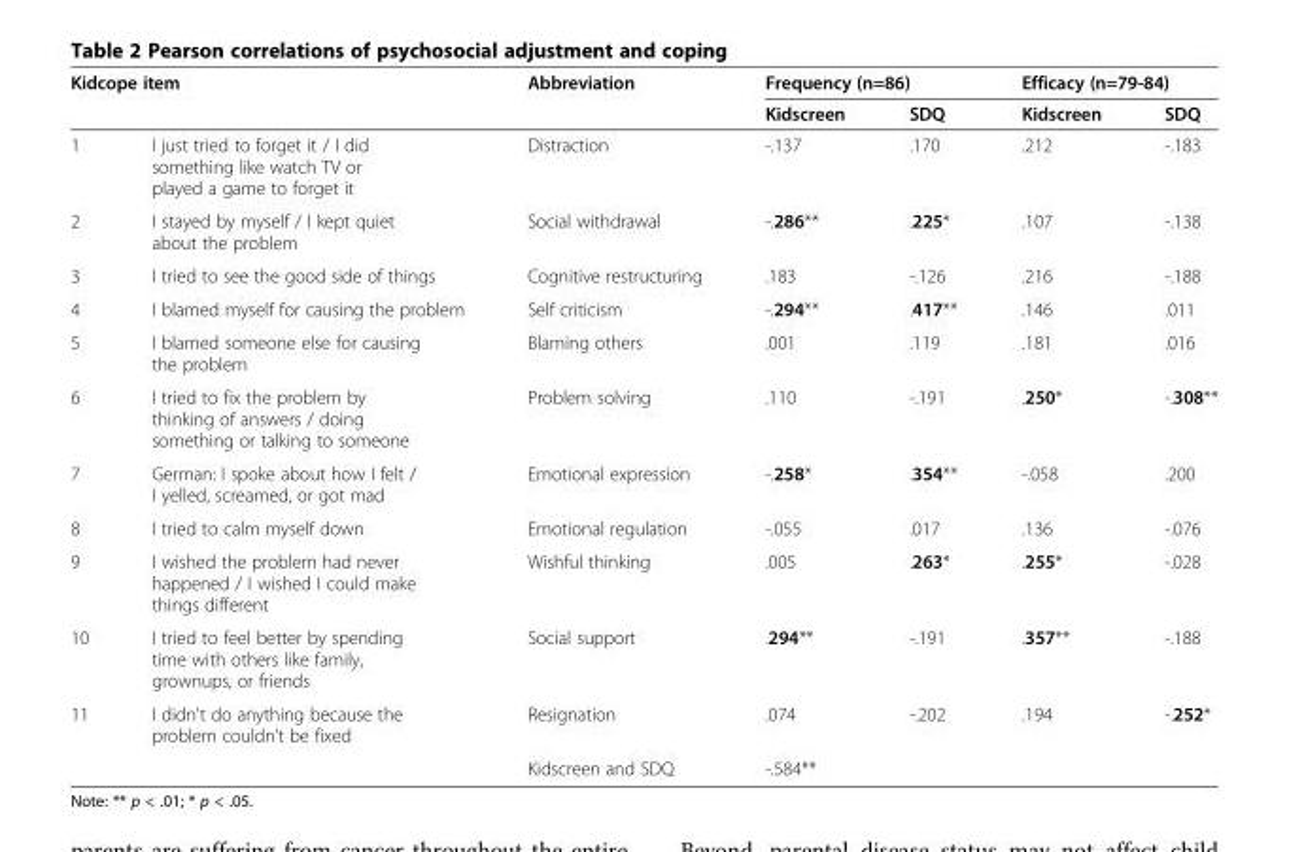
<table><thead><tr><td colspan="2">Kidcope item</td><td rowspan="2">Abbreviation</td><td colspan="2">Frequency (n=86)</td><td colspan="2">Efficacy (n=79-84)</td></tr><tr><td></td><td></td><td>Kidscreen</td><td>SDQ</td><td>Kidscreen</td><td>SDQ</td></tr></thead><tbody><tr><td>1</td><td>I just tried to forget it / I did something like watch TV or played a game to forget it</td><td>Distraction</td><td>-.137</td><td>.170</td><td>.212</td><td>-.183</td></tr><tr><td>2</td><td>I stayed by myself / I kept quiet about the problem</td><td>Social withdrawal</td><td>-.286**</td><td>.225*</td><td>.107</td><td>-.138</td></tr><tr><td>3</td><td>I tried to see the good side of things</td><td>Cognitive restructuring</td><td>.183</td><td>-.126</td><td>.216</td><td>-.188</td></tr><tr><td>4</td><td>I blamed myself for causing the problem</td><td>Self criticism</td><td>-.294**</td><td>.417**</td><td>.146</td><td>.011</td></tr><tr><td>5</td><td>I blamed someone else for causing the problem</td><td>Blaming others</td><td>.001</td><td>.119</td><td>.181</td><td>.016</td></tr><tr><td>6</td><td>I tried to fix the problem by thinking of answers / doing something or talking to someone</td><td>Problem solving</td><td>.110</td><td>-.191</td><td>.250*</td><td>-.308**</td></tr><tr><td>7</td><td>German: I spoke about how I felt / I yelled, screamed, or got mad</td><td>Emotional expression</td><td>-.258*</td><td>.354**</td><td>-.058</td><td>.200</td></tr><tr><td>8</td><td>I tried to calm myself down</td><td>Emotional regulation</td><td>-.055</td><td>.017</td><td>.136</td><td>-.076</td></tr><tr><td>9</td><td>I wished the problem had never happened / I wished I could make things different</td><td>Wishful thinking</td><td>.005</td><td>.263*</td><td>.255*</td><td>-.028</td></tr><tr><td>10</td><td>I tried to feel better by spending time with others like family, grownups, or friends</td><td>Social support</td><td>.294**</td><td>-.191</td><td>.357**</td><td>-.188</td></tr><tr><td rowspan="2">11</td><td>I didn&#x27;t do anything because the problem couldn&#x27;t be fixed</td><td>Resignation</td><td>.074</td><td>-.202</td><td>.194</td><td>-.252*</td></tr><tr><td></td><td>Kidscreen and SDQ</td><td colspan="4">-.584**</td></tr></tbody></table>